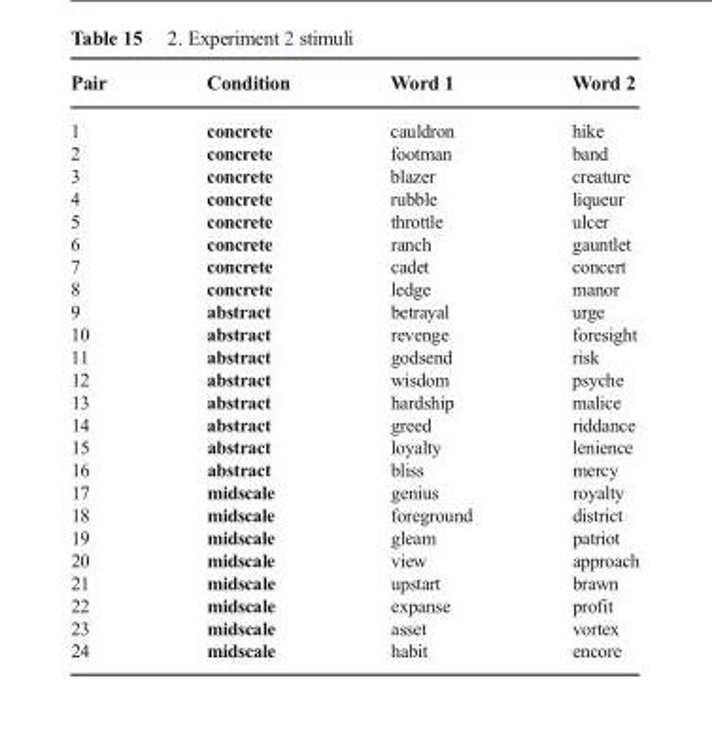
<table><thead><tr><td>Pair</td><td>Condition</td><td>Word 1</td><td>Word 2</td></tr></thead><tbody><tr><td>1</td><td>concrete</td><td>cauldron</td><td>hike</td></tr><tr><td>2</td><td>concrete</td><td>footman</td><td>band</td></tr><tr><td>3</td><td>concrete</td><td>blazer</td><td>creature</td></tr><tr><td>4</td><td>concrete</td><td>rubble</td><td>liqueur</td></tr><tr><td>5</td><td>concrete</td><td>throttle</td><td>ulcer</td></tr><tr><td>6</td><td>concrete</td><td>ranch</td><td>gauntlet</td></tr><tr><td>7</td><td>concrete</td><td>cadet</td><td>concert</td></tr><tr><td>8</td><td>concrete</td><td>ledge</td><td>manor</td></tr><tr><td>9</td><td>abstract</td><td>betrayal</td><td>urge</td></tr><tr><td>10</td><td>abstract</td><td>revenge</td><td>foresight</td></tr><tr><td>11</td><td>abstract</td><td>godsend</td><td>risk</td></tr><tr><td>12</td><td>abstract</td><td>wisdom</td><td>psyche</td></tr><tr><td>13</td><td>abstract</td><td>hardship</td><td>malice</td></tr><tr><td>14</td><td>abstract</td><td>greed</td><td>riddance</td></tr><tr><td>15</td><td>abstract</td><td>loyalty</td><td>lenience</td></tr><tr><td>16</td><td>abstract</td><td>bliss</td><td>mercy</td></tr><tr><td>17</td><td>midscale</td><td>genius</td><td>royalty</td></tr><tr><td>18</td><td>midscale</td><td>foreground</td><td>district</td></tr><tr><td>19</td><td>midscale</td><td>gleam</td><td>patriot</td></tr><tr><td>20</td><td>midscale</td><td>view</td><td>approach</td></tr><tr><td>21</td><td>midscale</td><td>upstart</td><td>brawn</td></tr><tr><td>22</td><td>midscale</td><td>expanse</td><td>profit</td></tr><tr><td>23</td><td>midscale</td><td>asset</td><td>vortex</td></tr><tr><td>24</td><td>midscale</td><td>habit</td><td>encore</td></tr></tbody></table>